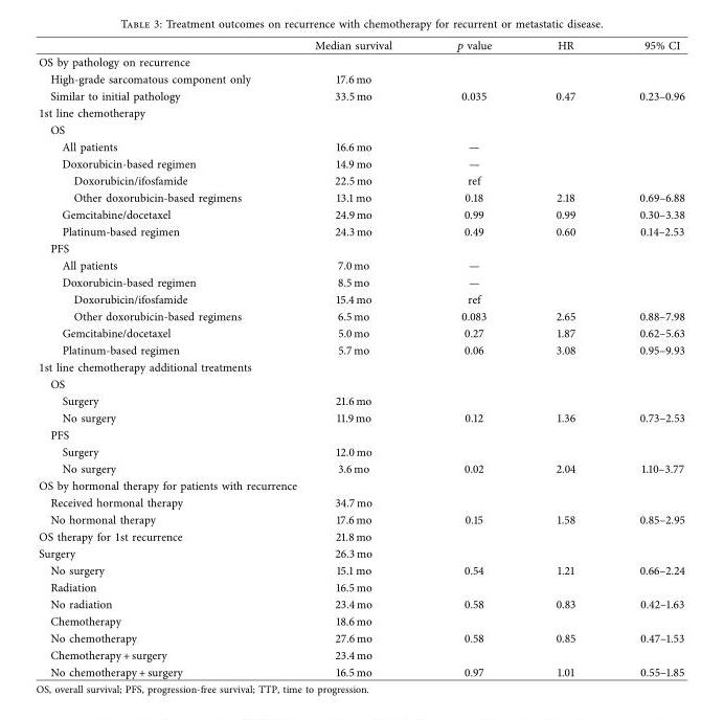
<table><thead><tr><td></td><td>Median survival</td><td>p value</td><td>HR</td><td>95% CI</td></tr></thead><tbody><tr><td colspan="5">OS by pathology on recurrence</td></tr><tr><td>High-grade sarcomatous component only</td><td>17.6 mo</td><td></td><td></td><td></td></tr><tr><td>Similar to initial pathology</td><td>33.5 mo</td><td>0.035</td><td>0.47</td><td>0.23–0.96</td></tr><tr><td colspan="5">1st line chemotherapy</td></tr><tr><td colspan="5">OS</td></tr><tr><td>All patients</td><td>16.6 mo</td><td>—</td><td></td><td></td></tr><tr><td>Doxorubicin-based regimen</td><td>14.9 mo</td><td>—</td><td></td><td></td></tr><tr><td>Doxorubicin/ifosfamide</td><td>22.5 mo</td><td>ref</td><td></td><td></td></tr><tr><td>Other doxorubicin-based regimens</td><td>13.1 mo</td><td>0.18</td><td>2.18</td><td>0.69–6.88</td></tr><tr><td>Gemcitabine/docetaxel</td><td>24.9 mo</td><td>0.99</td><td>0.99</td><td>0.30–3.38</td></tr><tr><td>Platinum-based regimen</td><td>24.3 mo</td><td>0.49</td><td>0.60</td><td>0.14–2.53</td></tr><tr><td colspan="5">PFS</td></tr><tr><td>All patients</td><td>7.0 mo</td><td>—</td><td></td><td></td></tr><tr><td>Doxorubicin-based regimen</td><td>8.5 mo</td><td>—</td><td></td><td></td></tr><tr><td>Doxorubicin/ifosfamide</td><td>15.4 mo</td><td>ref</td><td></td><td></td></tr><tr><td>Other doxorubicin-based regimens</td><td>6.5 mo</td><td>0.083</td><td>2.65</td><td>0.88–7.98</td></tr><tr><td>Gemcitabine/docetaxel</td><td>5.0 mo</td><td>0.27</td><td>1.87</td><td>0.62–5.63</td></tr><tr><td>Platinum-based regimen</td><td>5.7 mo</td><td>0.06</td><td>3.08</td><td>0.95–9.93</td></tr><tr><td colspan="5">1st line chemotherapy additional treatments</td></tr><tr><td colspan="5">OS</td></tr><tr><td>Surgery</td><td>21.6 mo</td><td></td><td></td><td></td></tr><tr><td>No surgery</td><td>11.9 mo</td><td>0.12</td><td>1.36</td><td>0.73–2.53</td></tr><tr><td colspan="5">PFS</td></tr><tr><td>Surgery</td><td>12.0 mo</td><td></td><td></td><td></td></tr><tr><td>No surgery</td><td>3.6 mo</td><td>0.02</td><td>2.04</td><td>1.10–3.77</td></tr><tr><td colspan="5">OS by hormonal therapy for patients with recurrence</td></tr><tr><td>Received hormonal therapy</td><td>34.7 mo</td><td></td><td></td><td></td></tr><tr><td>No hormonal therapy</td><td>17.6 mo</td><td>0.15</td><td>1.58</td><td>0.85–2.95</td></tr><tr><td>OS therapy for 1st recurrence</td><td>21.8 mo</td><td></td><td></td><td></td></tr><tr><td>Surgery</td><td>26.3 mo</td><td></td><td></td><td></td></tr><tr><td>No surgery</td><td>15.1 mo</td><td>0.54</td><td>1.21</td><td>0.66–2.24</td></tr><tr><td>Radiation</td><td>16.5 mo</td><td></td><td></td><td></td></tr><tr><td>No radiation</td><td>23.4 mo</td><td>0.58</td><td>0.83</td><td>0.42–1.63</td></tr><tr><td>Chemotherapy</td><td>18.6 mo</td><td></td><td></td><td></td></tr><tr><td>No chemotherapy</td><td>27.6 mo</td><td>0.58</td><td>0.85</td><td>0.47–1.53</td></tr><tr><td>Chemotherapy + surgery</td><td>23.4 mo</td><td></td><td></td><td></td></tr><tr><td>No chemotherapy + surgery</td><td>16.5 mo</td><td>0.97</td><td>1.01</td><td>0.55–1.85</td></tr></tbody></table>